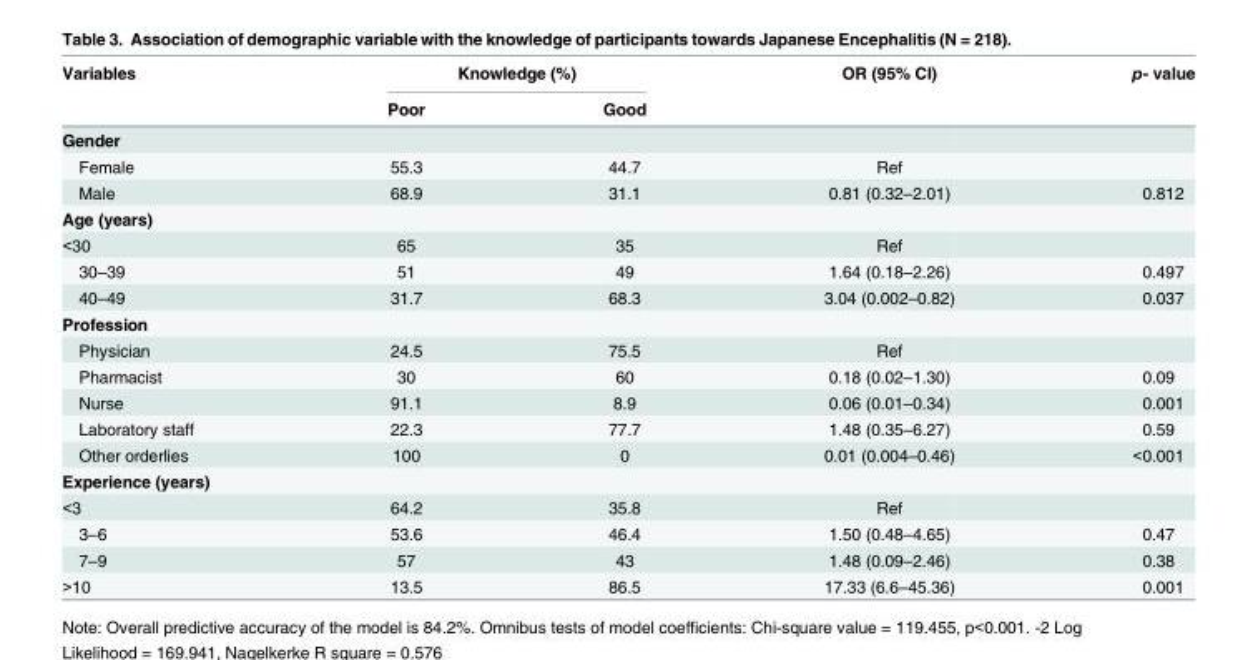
<table><thead><tr><td rowspan="2">Variables</td><td colspan="2">Knowledge (%)</td><td rowspan="2">OR (95% CI)</td><td rowspan="2">p- value</td></tr><tr><td>Poor</td><td>Good</td></tr></thead><tbody><tr><td colspan="5">Gender</td></tr><tr><td>Female</td><td>55.3</td><td>44.7</td><td>Ref</td><td></td></tr><tr><td>Male</td><td>68.9</td><td>31.1</td><td>0.81 (0.32–2.01)</td><td>0.812</td></tr><tr><td colspan="5">Age (years)</td></tr><tr><td>&lt;30</td><td>65</td><td>35</td><td>Ref</td><td></td></tr><tr><td>30–39</td><td>51</td><td>49</td><td>1.64 (0.18–2.26)</td><td>0.497</td></tr><tr><td>40–49</td><td>31.7</td><td>68.3</td><td>3.04 (0.002–0.82)</td><td>0.037</td></tr><tr><td colspan="5">Profession</td></tr><tr><td>Physician</td><td>24.5</td><td>75.5</td><td>Ref</td><td></td></tr><tr><td>Pharmacist</td><td>30</td><td>60</td><td>0.18 (0.02–1.30)</td><td>0.09</td></tr><tr><td>Nurse</td><td>91.1</td><td>8.9</td><td>0.06 (0.01–0.34)</td><td>0.001</td></tr><tr><td>Laboratory staff</td><td>22.3</td><td>77.7</td><td>1.48 (0.35–6.27)</td><td>0.59</td></tr><tr><td>Other orderlies</td><td>100</td><td>0</td><td>0.01 (0.004–0.46)</td><td>&lt;0.001</td></tr><tr><td colspan="5">Experience (years)</td></tr><tr><td>&lt;3</td><td>64.2</td><td>35.8</td><td>Ref</td><td></td></tr><tr><td>3–6</td><td>53.6</td><td>46.4</td><td>1.50 (0.48–4.65)</td><td>0.47</td></tr><tr><td>7–9</td><td>57</td><td>43</td><td>1.48 (0.09–2.46)</td><td>0.38</td></tr><tr><td>&gt;10</td><td>13.5</td><td>86.5</td><td>17.33 (6.6–45.36)</td><td>0.001</td></tr></tbody></table>